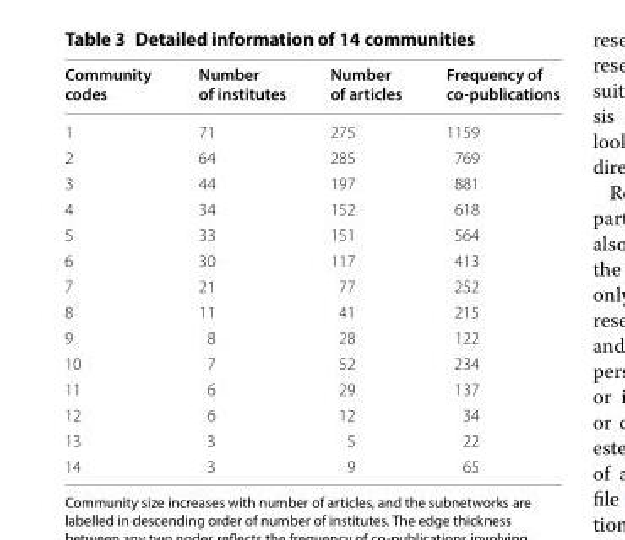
<table><thead><tr><td>Community codes</td><td>Number of institutes</td><td>Number of articles</td><td>Frequency of co-publications</td></tr></thead><tbody><tr><td>1</td><td>71</td><td>275</td><td>1159</td></tr><tr><td>2</td><td>64</td><td>285</td><td>769</td></tr><tr><td>3</td><td>44</td><td>197</td><td>881</td></tr><tr><td>4</td><td>34</td><td>152</td><td>618</td></tr><tr><td>5</td><td>33</td><td>151</td><td>564</td></tr><tr><td>6</td><td>30</td><td>117</td><td>413</td></tr><tr><td>7</td><td>21</td><td>77</td><td>252</td></tr><tr><td>8</td><td>11</td><td>41</td><td>215</td></tr><tr><td>9</td><td>8</td><td>28</td><td>122</td></tr><tr><td>10</td><td>7</td><td>52</td><td>234</td></tr><tr><td>11</td><td>6</td><td>29</td><td>137</td></tr><tr><td>12</td><td>6</td><td>12</td><td>34</td></tr><tr><td>13</td><td>3</td><td>5</td><td>22</td></tr><tr><td>14</td><td>3</td><td>9</td><td>65</td></tr></tbody></table>